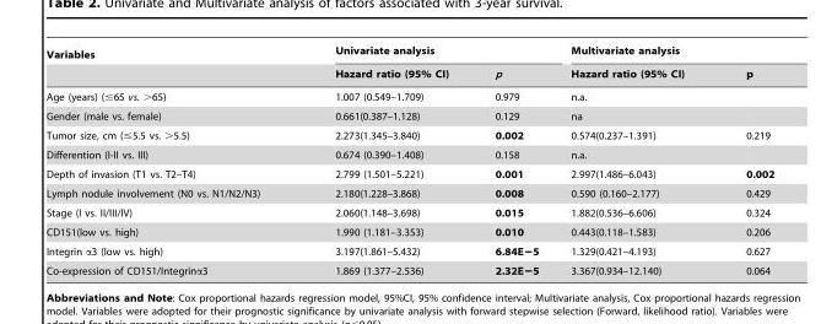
<table><thead><tr><td rowspan="2">Variables</td><td colspan="2">Univariate analysis</td><td colspan="2">Multivariate analysis</td></tr><tr><td>Hazard ratio (95% CI)</td><td>p</td><td>Hazard ratio (95% CI)</td><td>p</td></tr></thead><tbody><tr><td>Age (years) (≤65 vs. &gt;65)</td><td>1.007 (0.549–1.709)</td><td>0.979</td><td>n.a.</td><td></td></tr><tr><td>Gender (male vs. female)</td><td>0.661(0.387–1.128)</td><td>0.129</td><td>na</td><td></td></tr><tr><td>Tumor size, cm (≤5.5 vs. &gt;5.5)</td><td>2.273(1.345–3.840)</td><td>0.002</td><td>0.574(0.237–1.391)</td><td>0.219</td></tr><tr><td>Differention (I-II vs. III)</td><td>0.674 (0.390–1.408)</td><td>0.158</td><td>n.a.</td><td></td></tr><tr><td>Depth of invasion (T1 vs. T2–T4)</td><td>2.799 (1.501–5.221)</td><td>0.001</td><td>2.997(1.486–6.043)</td><td>0.002</td></tr><tr><td>Lymph nodule involvement (N0 vs. N1/N2/N3)</td><td>2.180(1.228–3.868)</td><td>0.008</td><td>0.590 (0.160–2.177)</td><td>0.429</td></tr><tr><td>Stage (I vs. II/III/IV)</td><td>2.060(1.148–3.698)</td><td>0.015</td><td>1.882(0.536–6.606)</td><td>0.324</td></tr><tr><td>CD151(low vs. high)</td><td>1.990 (1.181–3.353)</td><td>0.010</td><td>0.443(0.118–1.583)</td><td>0.206</td></tr><tr><td>Integrin α3 (low vs. high)</td><td>3.197(1.861–5.432)</td><td>6.84E−5</td><td>1.329(0.421–4.193)</td><td>0.627</td></tr><tr><td>Co-expression of CD151/Integrinα3</td><td>1.869 (1.377–2.536)</td><td>2.32E−5</td><td>3.367(0.934–12.140)</td><td>0.064</td></tr></tbody></table>